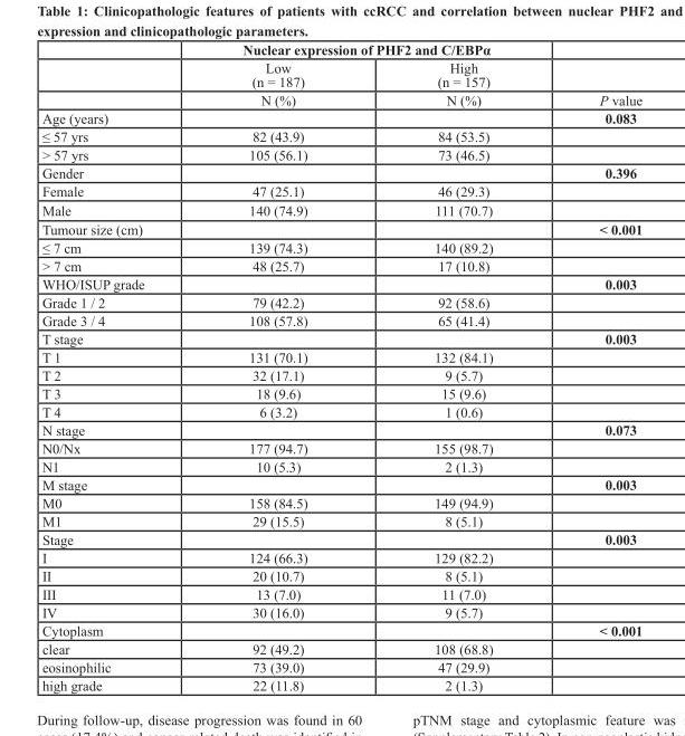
<table><thead><tr><td rowspan="2"></td><td colspan="2">Nuclear expression of PHF2 and C/EBPα</td><td rowspan="2"></td></tr><tr><td>Low (n = 187)</td><td>High (n = 157)</td></tr></thead><tbody><tr><td></td><td>N (%)</td><td>N (%)</td><td>P value</td></tr><tr><td>Age (years)</td><td></td><td></td><td>0.083</td></tr><tr><td>≤ 57 yrs</td><td>82 (43.9)</td><td>84 (53.5)</td><td></td></tr><tr><td>&gt; 57 yrs</td><td>105 (56.1)</td><td>73 (46.5)</td><td></td></tr><tr><td>Gender</td><td></td><td></td><td>0.396</td></tr><tr><td>Female</td><td>47 (25.1)</td><td>46 (29.3)</td><td></td></tr><tr><td>Male</td><td>140 (74.9)</td><td>111 (70.7)</td><td></td></tr><tr><td>Tumour size (cm)</td><td></td><td></td><td>&lt; 0.001</td></tr><tr><td>≤ 7 cm</td><td>139 (74.3)</td><td>140 (89.2)</td><td></td></tr><tr><td>&gt; 7 cm</td><td>48 (25.7)</td><td>17 (10.8)</td><td></td></tr><tr><td>WHO/ISUP grade</td><td></td><td></td><td>0.003</td></tr><tr><td>Grade 1 / 2</td><td>79 (42.2)</td><td>92 (58.6)</td><td></td></tr><tr><td>Grade 3 / 4</td><td>108 (57.8)</td><td>65 (41.4)</td><td></td></tr><tr><td>T stage</td><td></td><td></td><td>0.003</td></tr><tr><td>T 1</td><td>131 (70.1)</td><td>132 (84.1)</td><td></td></tr><tr><td>T 2</td><td>32 (17.1)</td><td>9 (5.7)</td><td></td></tr><tr><td>T 3</td><td>18 (9.6)</td><td>15 (9.6)</td><td></td></tr><tr><td>T 4</td><td>6 (3.2)</td><td>1 (0.6)</td><td></td></tr><tr><td>N stage</td><td></td><td></td><td>0.073</td></tr><tr><td>N0/Nx</td><td>177 (94.7)</td><td>155 (98.7)</td><td></td></tr><tr><td>N1</td><td>10 (5.3)</td><td>2 (1.3)</td><td></td></tr><tr><td>M stage</td><td></td><td></td><td>0.003</td></tr><tr><td>M0</td><td>158 (84.5)</td><td>149 (94.9)</td><td></td></tr><tr><td>M1</td><td>29 (15.5)</td><td>8 (5.1)</td><td></td></tr><tr><td>Stage</td><td></td><td></td><td>0.003</td></tr><tr><td>I</td><td>124 (66.3)</td><td>129 (82.2)</td><td></td></tr><tr><td>II</td><td>20 (10.7)</td><td>8 (5.1)</td><td></td></tr><tr><td>III</td><td>13 (7.0)</td><td>11 (7.0)</td><td></td></tr><tr><td>IV</td><td>30 (16.0)</td><td>9 (5.7)</td><td></td></tr><tr><td>Cytoplasm</td><td></td><td></td><td>&lt; 0.001</td></tr><tr><td>clear</td><td>92 (49.2)</td><td>108 (68.8)</td><td></td></tr><tr><td>eosinophilic</td><td>73 (39.0)</td><td>47 (29.9)</td><td></td></tr><tr><td>high grade</td><td>22 (11.8)</td><td>2 (1.3)</td><td></td></tr></tbody></table>